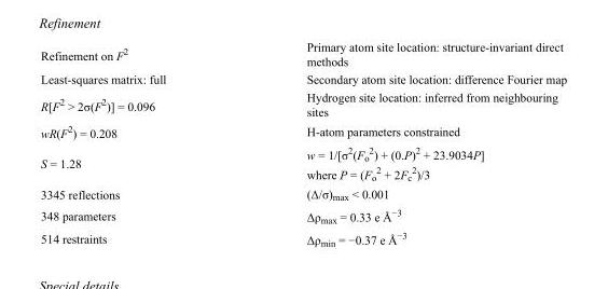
<table><tbody><tr><td>Refinement on F<sup>2</sup></td><td>Primary atom site location: structure-invariant direct methods</td></tr><tr><td>Least-squares matrix: full</td><td>Secondary atom site location: difference Fourier map</td></tr><tr><td>R[F<sup>2</sup> &gt; 2σ(F<sup>2</sup>)] = 0.096</td><td>Hydrogen site location: inferred from neighbouring sites</td></tr><tr><td>wR(F<sup>2</sup>) = 0.208</td><td>H-atom parameters constrained</td></tr><tr><td>S = 1.28</td><td>w = 1/[σ<sup>2</sup>(F<sub>o</sub> <sup>2</sup>) + (0.P)<sup>2</sup> + 23.9034P] where P = (F<sub>o</sub> <sup>2</sup> + 2F<sub>c</sub> <sup>2</sup>)/3</td></tr><tr><td>3345 reflections</td><td>(Δ/σ)<sub>max</sub> &lt; 0.001</td></tr><tr><td>348 parameters</td><td>Δρ<sub>max</sub> = 0.33 e Å<sup>−3</sup></td></tr><tr><td>514 restraints</td><td>Δρ<sub>min</sub> = −0.37 e Å<sup>−3</sup></td></tr></tbody></table>